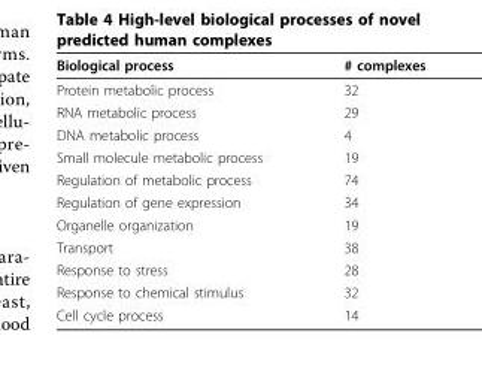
<table><thead><tr><td>Biological process</td><td># complexes</td></tr></thead><tbody><tr><td>Protein metabolic process</td><td>32</td></tr><tr><td>RNA metabolic process</td><td>29</td></tr><tr><td>DNA metabolic process</td><td>4</td></tr><tr><td>Small molecule metabolic process</td><td>19</td></tr><tr><td>Regulation of metabolic process</td><td>74</td></tr><tr><td>Regulation of gene expression</td><td>34</td></tr><tr><td>Organelle organization</td><td>19</td></tr><tr><td>Transport</td><td>38</td></tr><tr><td>Response to stress</td><td>28</td></tr><tr><td>Response to chemical stimulus</td><td>32</td></tr><tr><td>Cell cycle process</td><td>14</td></tr></tbody></table>